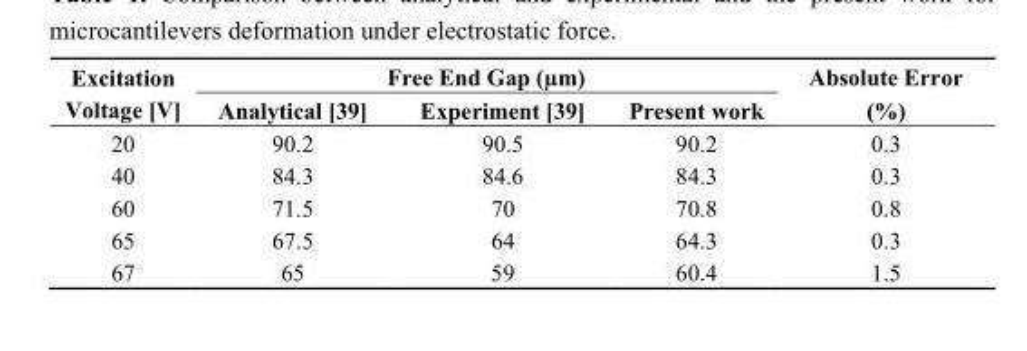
<table><thead><tr><td rowspan="2">Excitation Voltage [V]</td><td colspan="3">Free End Gap (µm)</td><td rowspan="2">Absolute Error (%)</td></tr><tr><td>Analytical [39]</td><td>Experiment [39]</td><td>Present work</td></tr></thead><tbody><tr><td>20</td><td>90.2</td><td>90.5</td><td>90.2</td><td>0.3</td></tr><tr><td>40</td><td>84.3</td><td>84.6</td><td>84.3</td><td>0.3</td></tr><tr><td>60</td><td>71.5</td><td>70</td><td>70.8</td><td>0.8</td></tr><tr><td>65</td><td>67.5</td><td>64</td><td>64.3</td><td>0.3</td></tr><tr><td>67</td><td>65</td><td>59</td><td>60.4</td><td>1.5</td></tr></tbody></table>